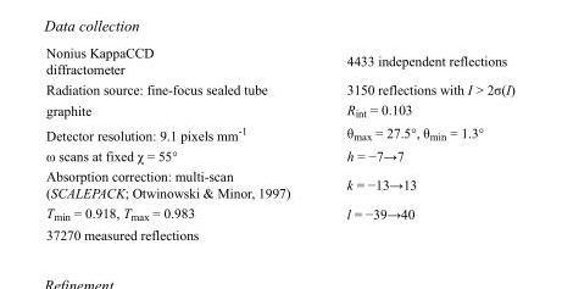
<table><tbody><tr><td>Nonius KappaCCD diffractometer</td><td>4433 independent reflections</td></tr><tr><td>Radiation source: fine-focus sealed tube</td><td>3150 reflections with I &gt; 2σ(I)</td></tr><tr><td>graphite</td><td>R<sub>int</sub> = 0.103</td></tr><tr><td>Detector resolution: 9.1 pixels mm<sup>-1</sup></td><td>θ<sub>max</sub> = 27.5°, θ<sub>min</sub> = 1.3°</td></tr><tr><td>ω scans at fixed χ = 55°</td><td>h = −7→7</td></tr><tr><td>Absorption correction: multi-scan (SCALEPACK; Otwinowski &amp; Minor, 1997)</td><td>k = −13→13</td></tr><tr><td>T<sub>min</sub> = 0.918, T<sub>max</sub> = 0.983</td><td>l = −39→40</td></tr><tr><td>37270 measured reflections</td><td></td></tr></tbody></table>